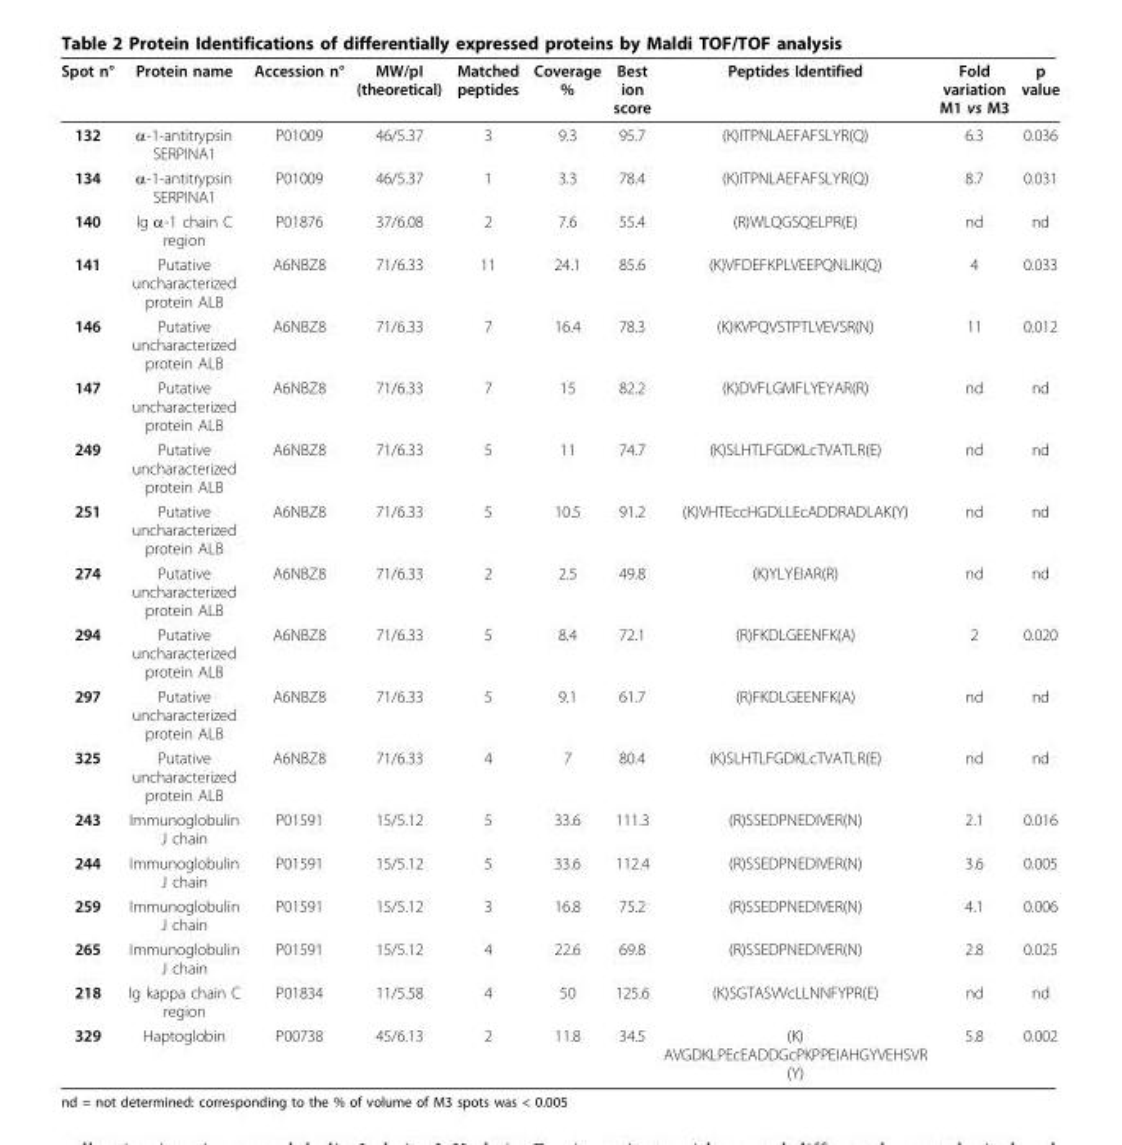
<table><thead><tr><td>Spot n°</td><td>Protein name</td><td>Accession n°</td><td>MW/pI (theoretical)</td><td>Matched peptides</td><td>Coverage %</td><td>Best ion score</td><td>Peptides Identified</td><td>Fold variation M1 vs M3</td><td>p value</td></tr></thead><tbody><tr><td>132</td><td>α-1-antitrypsin SERPINA1</td><td>P01009</td><td>46/5.37</td><td>3</td><td>9.3</td><td>95.7</td><td>(K)ITPNLAEFAFSLYR(Q)</td><td>6.3</td><td>0.036</td></tr><tr><td>134</td><td>α-1-antitrypsin SERPINA1</td><td>P01009</td><td>46/5.37</td><td>1</td><td>3.3</td><td>78.4</td><td>(K)ITPNLAEFAFSLYR(Q)</td><td>8.7</td><td>0.031</td></tr><tr><td>140</td><td>Ig α-1 chain C region</td><td>P01876</td><td>37/6.08</td><td>2</td><td>7.6</td><td>55.4</td><td>(R)WLQGSQELPR(E)</td><td>nd</td><td>nd</td></tr><tr><td>141</td><td>Putative uncharacterized protein ALB</td><td>A6NBZ8</td><td>71/6.33</td><td>11</td><td>24.1</td><td>85.6</td><td>(K)VFDEFKPLVEEPQNLIK(Q)</td><td>4</td><td>0.033</td></tr><tr><td>146</td><td>Putative uncharacterized protein ALB</td><td>A6NBZ8</td><td>71/6.33</td><td>7</td><td>16.4</td><td>78.3</td><td>(K)KVPQVSTPTLVEVSR(N)</td><td>11</td><td>0.012</td></tr><tr><td>147</td><td>Putative uncharacterized protein ALB</td><td>A6NBZ8</td><td>71/6.33</td><td>7</td><td>15</td><td>82.2</td><td>(K)DVFLGMFLYEYAR(R)</td><td>nd</td><td>nd</td></tr><tr><td>249</td><td>Putative uncharacterized protein ALB</td><td>A6NBZ8</td><td>71/6.33</td><td>5</td><td>11</td><td>74.7</td><td>(K)SLHTLFGDKLcTVATLR(E)</td><td>nd</td><td>nd</td></tr><tr><td>251</td><td>Putative uncharacterized protein ALB</td><td>A6NBZ8</td><td>71/6.33</td><td>5</td><td>10.5</td><td>91.2</td><td>(K)VHTEccHGDLLEcADDRADLAK(Y)</td><td>nd</td><td>nd</td></tr><tr><td>274</td><td>Putative uncharacterized protein ALB</td><td>A6NBZ8</td><td>71/6.33</td><td>2</td><td>2.5</td><td>49.8</td><td>(K)YLYEIAR(R)</td><td>nd</td><td>nd</td></tr><tr><td>294</td><td>Putative uncharacterized protein ALB</td><td>A6NBZ8</td><td>71/6.33</td><td>5</td><td>8.4</td><td>72.1</td><td>(R)FKDLGEENFK(A)</td><td>2</td><td>0.020</td></tr><tr><td>297</td><td>Putative uncharacterized protein ALB</td><td>A6NBZ8</td><td>71/6.33</td><td>5</td><td>9.1</td><td>61.7</td><td>(R)FKDLGEENFK(A)</td><td>nd</td><td>nd</td></tr><tr><td>325</td><td>Putative uncharacterized protein ALB</td><td>A6NBZ8</td><td>71/6.33</td><td>4</td><td>7</td><td>80.4</td><td>(K)SLHTLFGDKLcTVATLR(E)</td><td>nd</td><td>nd</td></tr><tr><td>243</td><td>Immunoglobulin J chain</td><td>P01591</td><td>15/5.12</td><td>5</td><td>33.6</td><td>111.3</td><td>(R)SSEDPNEDIVER(N)</td><td>2.1</td><td>0.016</td></tr><tr><td>244</td><td>Immunoglobulin J chain</td><td>P01591</td><td>15/5.12</td><td>5</td><td>33.6</td><td>112.4</td><td>(R)SSEDPNEDIVER(N)</td><td>3.6</td><td>0.005</td></tr><tr><td>259</td><td>Immunoglobulin J chain</td><td>P01591</td><td>15/5.12</td><td>3</td><td>16.8</td><td>75.2</td><td>(R)SSEDPNEDIVER(N)</td><td>4.1</td><td>0.006</td></tr><tr><td>265</td><td>Immunoglobulin J chain</td><td>P01591</td><td>15/5.12</td><td>4</td><td>22.6</td><td>69.8</td><td>(R)SSEDPNEDIVER(N)</td><td>2.8</td><td>0.025</td></tr><tr><td>218</td><td>Ig kappa chain C region</td><td>P01834</td><td>11/5.58</td><td>4</td><td>50</td><td>125.6</td><td>(K)SGTASVVcLLNNFYPR(E)</td><td>nd</td><td>nd</td></tr><tr><td>329</td><td>Haptoglobin</td><td>P00738</td><td>45/6.13</td><td>2</td><td>11.8</td><td>34.5</td><td>(K) AVGDKLPEcEADDGcPKPPEIAHGYVEHSVR (Y)</td><td>5.8</td><td>0.002</td></tr></tbody></table>